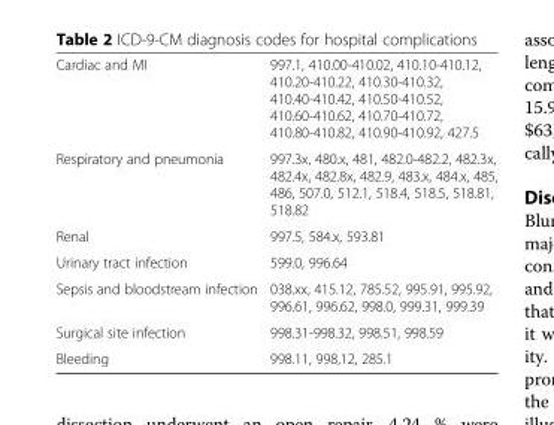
<table><tbody><tr><td>Cardiac and MI</td><td>997.1, 410.00-410.02, 410.10-410.12, 410.20-410.22, 410.30-410.32, 410.40-410.42, 410.50-410.52, 410.60-410.62, 410.70-410.72, 410.80-410.82, 410.90-410.92, 427.5</td></tr><tr><td>Respiratory and pneumonia</td><td>997.3x, 480.x, 481, 482.0-482.2, 482.3x, 482.4x, 482.8x, 482.9, 483.x, 484.x, 485, 486, 507.0, 512.1, 518.4, 518.5, 518.81, 518.82</td></tr><tr><td>Renal</td><td>997.5, 584.x, 593.81</td></tr><tr><td>Urinary tract infection</td><td>599.0, 996.64</td></tr><tr><td>Sepsis and bloodstream infection</td><td>038.xx, 415.12, 785.52, 995.91, 995.92, 996.61, 996.62, 998.0, 999.31, 999.39</td></tr><tr><td>Surgical site infection</td><td>998.31-998.32, 998.51, 998.59</td></tr><tr><td>Bleeding</td><td>998.11, 998,12, 285.1</td></tr></tbody></table>